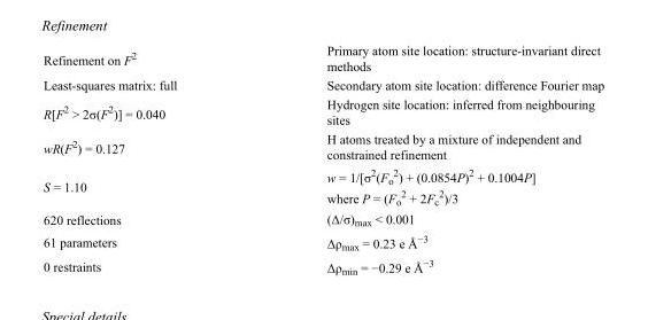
<table><tbody><tr><td>Refinement on F<sup>2</sup></td><td>Primary atom site location: structure-invariant direct methods</td></tr><tr><td>Least-squares matrix: full</td><td>Secondary atom site location: difference Fourier map</td></tr><tr><td>R[F<sup>2</sup> &gt; 2σ(F<sup>2</sup>)] = 0.040</td><td>Hydrogen site location: inferred from neighbouring sites</td></tr><tr><td>wR(F<sup>2</sup>) = 0.127</td><td>H atoms treated by a mixture of independent and constrained refinement</td></tr><tr><td>S = 1.10</td><td>w = 1/[σ<sup>2</sup>(F<sub>o</sub> <sup>2</sup>) + (0.0854P)<sup>2</sup> + 0.1004P] where P = (F<sub>o</sub> <sup>2</sup> + 2F<sub>c</sub> <sup>2</sup>)/3</td></tr><tr><td>620 reflections</td><td>(Δ/σ)<sub>max</sub> &lt; 0.001</td></tr><tr><td>61 parameters</td><td>Δρ<sub>max</sub> = 0.23 e Å<sup>−3</sup></td></tr><tr><td>0 restraints</td><td>Δρ<sub>min</sub> = −0.29 e Å<sup>−3</sup></td></tr></tbody></table>